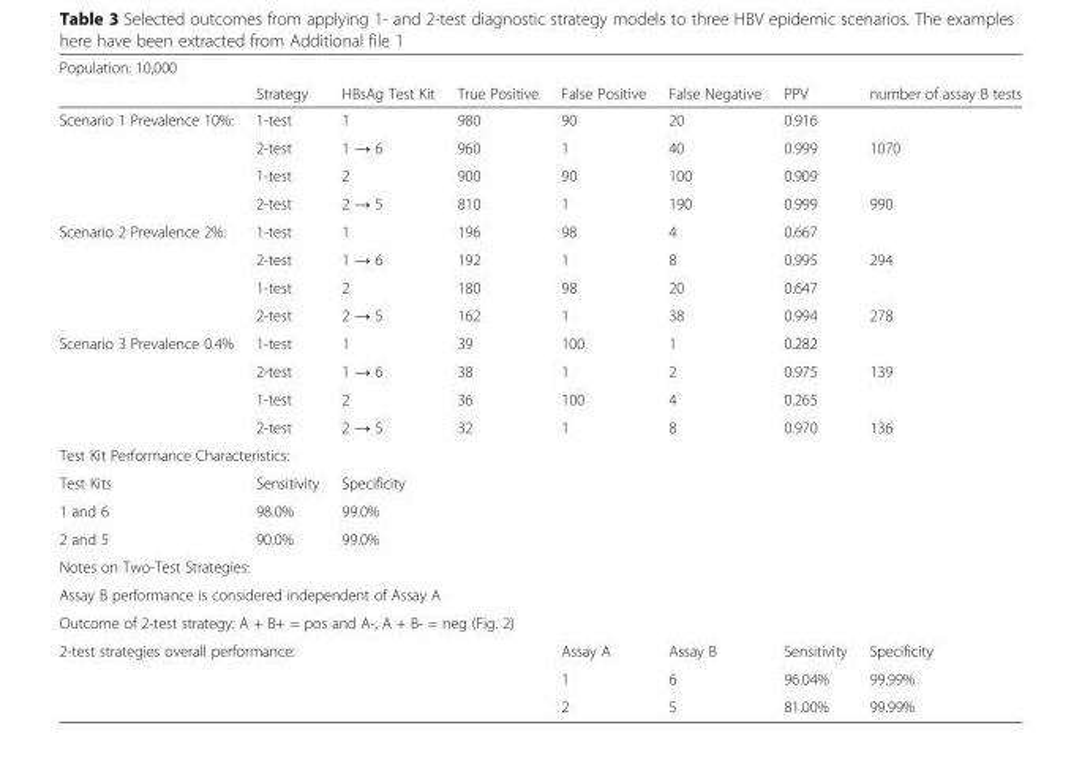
<table><thead><tr><td rowspan="2">Population: 10,000</td><td rowspan="2">Strategy</td><td rowspan="2">HBsAg Test Kit</td><td rowspan="2">True Positive</td><td rowspan="2">False Positive</td><td rowspan="2">False Negative</td><td rowspan="2">PPV</td><td rowspan="2">number of assay B tests</td></tr><tr></tr></thead><tbody><tr><td rowspan="4">Scenario 1 Prevalence 10%:</td><td>1-test</td><td>1</td><td>980</td><td>90</td><td>20</td><td>0.916</td><td></td></tr><tr><td>2-test</td><td>1 → 6</td><td>960</td><td>1</td><td>40</td><td>0.999</td><td>1070</td></tr><tr><td>1-test</td><td>2</td><td>900</td><td>90</td><td>100</td><td>0.909</td><td></td></tr><tr><td>2-test</td><td>2 → 5</td><td>810</td><td>1</td><td>190</td><td>0.999</td><td>990</td></tr><tr><td rowspan="4">Scenario 2 Prevalence 2%:</td><td>1-test</td><td>1</td><td>196</td><td>98</td><td>4</td><td>0.667</td><td></td></tr><tr><td>2-test</td><td>1 → 6</td><td>192</td><td>1</td><td>8</td><td>0.995</td><td>294</td></tr><tr><td>1-test</td><td>2</td><td>180</td><td>98</td><td>20</td><td>0.647</td><td></td></tr><tr><td>2-test</td><td>2 → 5</td><td>162</td><td>1</td><td>38</td><td>0.994</td><td>278</td></tr><tr><td rowspan="4">Scenario 3 Prevalence 0.4%</td><td>1-test</td><td>1</td><td>39</td><td>100</td><td>1</td><td>0.282</td><td></td></tr><tr><td>2-test</td><td>1 → 6</td><td>38</td><td>1</td><td>2</td><td>0.975</td><td>139</td></tr><tr><td>1-test</td><td>2</td><td>36</td><td>100</td><td>4</td><td>0.265</td><td></td></tr><tr><td>2-test</td><td>2 → 5</td><td>32</td><td>1</td><td>8</td><td>0.970</td><td>136</td></tr><tr><td colspan="8">Test Kit Performance Characteristics:</td></tr><tr><td>Test Kits</td><td>Sensitivity</td><td>Specificity</td><td></td><td></td><td></td><td></td><td></td></tr><tr><td>1 and 6</td><td>98.0%</td><td>99.0%</td><td></td><td></td><td></td><td></td><td></td></tr><tr><td>2 and 5</td><td>90.0%</td><td>99.0%</td><td></td><td></td><td></td><td></td><td></td></tr><tr><td colspan="8">Notes on Two-Test Strategies:</td></tr><tr><td colspan="8">Assay B performance is considered independent of Assay A</td></tr><tr><td colspan="8">Outcome of 2-test strategy: A + B+ = pos and A-, A + B- = neg (Fig. 2)</td></tr><tr><td colspan="4">2-test strategies overall performance:</td><td>Assay A</td><td>Assay B</td><td>Sensitivity</td><td>Specificity</td></tr><tr><td></td><td></td><td></td><td></td><td>1</td><td>6</td><td>96.04%</td><td>99.99%</td></tr><tr><td></td><td></td><td></td><td></td><td>2</td><td>5</td><td>81.00%</td><td>99.99%</td></tr></tbody></table>